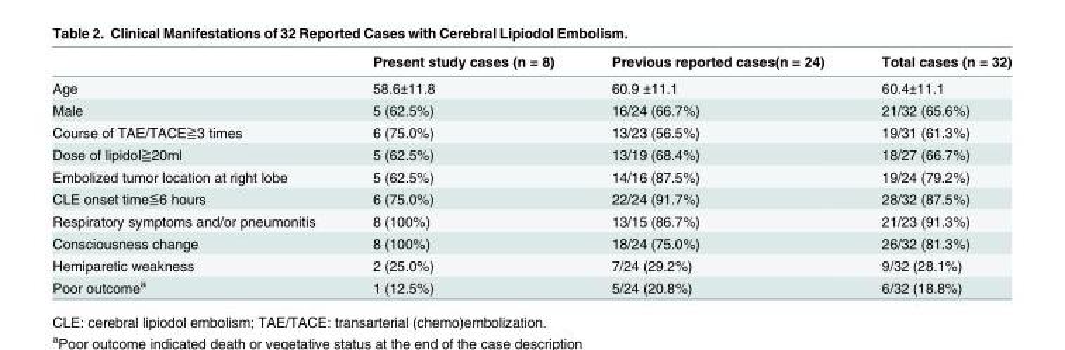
<table><thead><tr><td></td><td>Present study cases (n = 8)</td><td>Previous reported cases(n = 24)</td><td>Total cases (n = 32)</td></tr></thead><tbody><tr><td>Age</td><td>58.6±11.8</td><td>60.9 ±11.1</td><td>60.4±11.1</td></tr><tr><td>Male</td><td>5 (62.5%)</td><td>16/24 (66.7%)</td><td>21/32 (65.6%)</td></tr><tr><td>Course of TAE/TACE≧3 times</td><td>6 (75.0%)</td><td>13/23 (56.5%)</td><td>19/31 (61.3%)</td></tr><tr><td>Dose of lipidol≧20ml</td><td>5 (62.5%)</td><td>13/19 (68.4%)</td><td>18/27 (66.7%)</td></tr><tr><td>Embolized tumor location at right lobe</td><td>5 (62.5%)</td><td>14/16 (87.5%)</td><td>19/24 (79.2%)</td></tr><tr><td>CLE onset time≦6 hours</td><td>6 (75.0%)</td><td>22/24 (91.7%)</td><td>28/32 (87.5%)</td></tr><tr><td>Respiratory symptoms and/or pneumonitis</td><td>8 (100%)</td><td>13/15 (86.7%)</td><td>21/23 (91.3%)</td></tr><tr><td>Consciousness change</td><td>8 (100%)</td><td>18/24 (75.0%)</td><td>26/32 (81.3%)</td></tr><tr><td>Hemiparetic weakness</td><td>2 (25.0%)</td><td>7/24 (29.2%)</td><td>9/32 (28.1%)</td></tr><tr><td>Poor outcome<sup>a</sup></td><td>1 (12.5%)</td><td>5/24 (20.8%)</td><td>6/32 (18.8%)</td></tr></tbody></table>